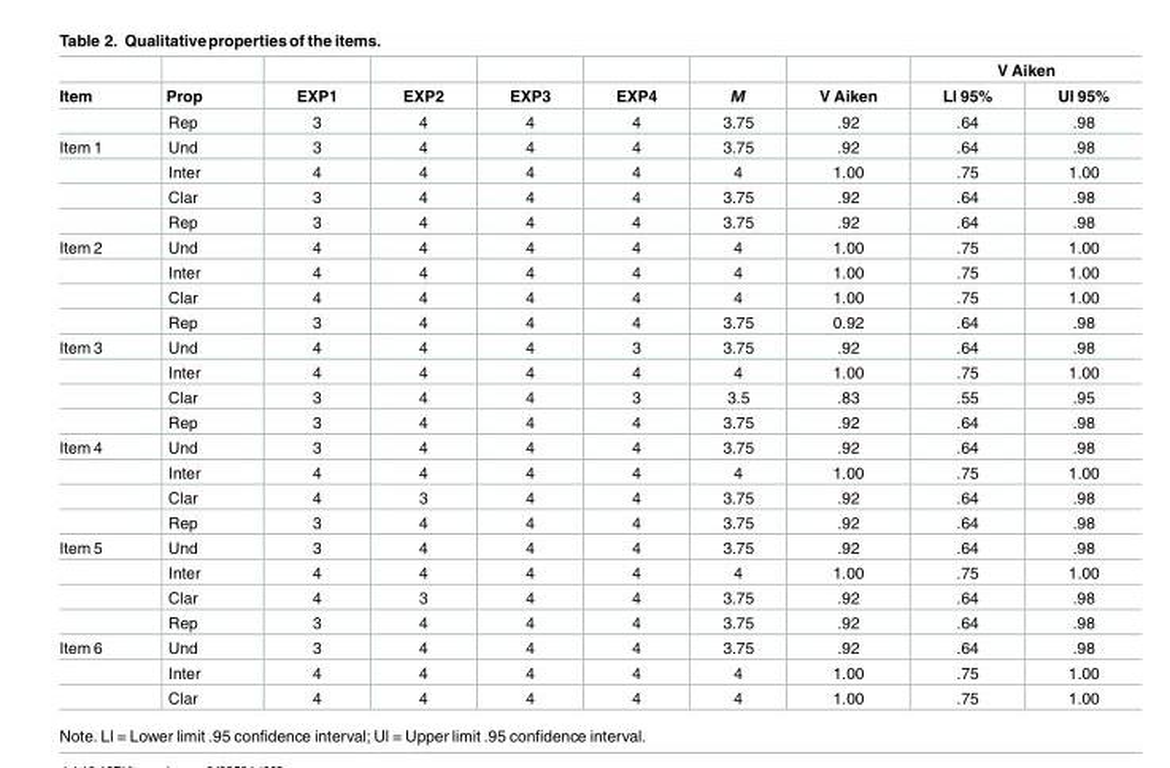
<table><thead><tr><td rowspan="2">Item</td><td rowspan="2">Prop</td><td rowspan="2">EXP1</td><td rowspan="2">EXP2</td><td rowspan="2">EXP3</td><td rowspan="2">EXP4</td><td rowspan="2">M</td><td rowspan="2">V Aiken</td><td colspan="2">V Aiken</td></tr><tr><td>Ll 95%</td><td>Ul 95%</td></tr></thead><tbody><tr><td></td><td>Rep</td><td>3</td><td>4</td><td>4</td><td>4</td><td>3.75</td><td>.92</td><td>.64</td><td>.98</td></tr><tr><td rowspan="4">Item 1</td><td>Und</td><td>3</td><td>4</td><td>4</td><td>4</td><td>3.75</td><td>.92</td><td>.64</td><td>.98</td></tr><tr><td>Inter</td><td>4</td><td>4</td><td>4</td><td>4</td><td>4</td><td>1.00</td><td>.75</td><td>1.00</td></tr><tr><td>Clar</td><td>3</td><td>4</td><td>4</td><td>4</td><td>3.75</td><td>.92</td><td>.64</td><td>.98</td></tr><tr><td>Rep</td><td>3</td><td>4</td><td>4</td><td>4</td><td>3.75</td><td>.92</td><td>.64</td><td>.98</td></tr><tr><td rowspan="4">Item 2</td><td>Und</td><td>4</td><td>4</td><td>4</td><td>4</td><td>4</td><td>1.00</td><td>.75</td><td>1.00</td></tr><tr><td>Inter</td><td>4</td><td>4</td><td>4</td><td>4</td><td>4</td><td>1.00</td><td>.75</td><td>1.00</td></tr><tr><td>Clar</td><td>4</td><td>4</td><td>4</td><td>4</td><td>4</td><td>1.00</td><td>.75</td><td>1.00</td></tr><tr><td>Rep</td><td>3</td><td>4</td><td>4</td><td>4</td><td>3.75</td><td>0.92</td><td>.64</td><td>.98</td></tr><tr><td rowspan="4">Item 3</td><td>Und</td><td>4</td><td>4</td><td>4</td><td>3</td><td>3.75</td><td>.92</td><td>.64</td><td>.98</td></tr><tr><td>Inter</td><td>4</td><td>4</td><td>4</td><td>4</td><td>4</td><td>1.00</td><td>.75</td><td>1.00</td></tr><tr><td>Clar</td><td>3</td><td>4</td><td>4</td><td>3</td><td>3.5</td><td>.83</td><td>.55</td><td>.95</td></tr><tr><td>Rep</td><td>3</td><td>4</td><td>4</td><td>4</td><td>3.75</td><td>.92</td><td>.64</td><td>.98</td></tr><tr><td rowspan="4">Item 4</td><td>Und</td><td>3</td><td>4</td><td>4</td><td>4</td><td>3.75</td><td>.92</td><td>.64</td><td>.98</td></tr><tr><td>Inter</td><td>4</td><td>4</td><td>4</td><td>4</td><td>4</td><td>1.00</td><td>.75</td><td>1.00</td></tr><tr><td>Clar</td><td>4</td><td>3</td><td>4</td><td>4</td><td>3.75</td><td>.92</td><td>.64</td><td>.98</td></tr><tr><td>Rep</td><td>3</td><td>4</td><td>4</td><td>4</td><td>3.75</td><td>.92</td><td>.64</td><td>.98</td></tr><tr><td rowspan="4">Item 5</td><td>Und</td><td>3</td><td>4</td><td>4</td><td>4</td><td>3.75</td><td>.92</td><td>.64</td><td>.98</td></tr><tr><td>Inter</td><td>4</td><td>4</td><td>4</td><td>4</td><td>4</td><td>1.00</td><td>.75</td><td>1.00</td></tr><tr><td>Clar</td><td>4</td><td>3</td><td>4</td><td>4</td><td>3.75</td><td>.92</td><td>.64</td><td>.98</td></tr><tr><td>Rep</td><td>3</td><td>4</td><td>4</td><td>4</td><td>3.75</td><td>.92</td><td>.64</td><td>.98</td></tr><tr><td rowspan="3">Item 6</td><td>Und</td><td>3</td><td>4</td><td>4</td><td>4</td><td>3.75</td><td>.92</td><td>.64</td><td>.98</td></tr><tr><td>Inter</td><td>4</td><td>4</td><td>4</td><td>4</td><td>4</td><td>1.00</td><td>.75</td><td>1.00</td></tr><tr><td>Clar</td><td>4</td><td>4</td><td>4</td><td>4</td><td>4</td><td>1.00</td><td>.75</td><td>1.00</td></tr></tbody></table>